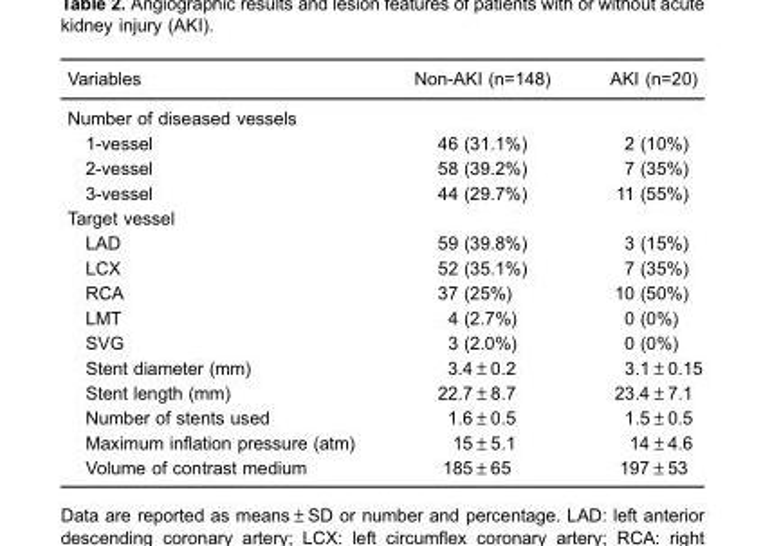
<table><thead><tr><td>Variables</td><td>Non-AKI (n=148)</td><td>AKI (n=20)</td></tr></thead><tbody><tr><td colspan="3">Number of diseased vessels</td></tr><tr><td>1-vessel</td><td>46 (31.1%)</td><td>2 (10%)</td></tr><tr><td>2-vessel</td><td>58 (39.2%)</td><td>7 (35%)</td></tr><tr><td>3-vessel</td><td>44 (29.7%)</td><td>11 (55%)</td></tr><tr><td colspan="3">Target vessel</td></tr><tr><td>LAD</td><td>59 (39.8%)</td><td>3 (15%)</td></tr><tr><td>LCX</td><td>52 (35.1%)</td><td>7 (35%)</td></tr><tr><td>RCA</td><td>37 (25%)</td><td>10 (50%)</td></tr><tr><td>LMT</td><td>4 (2.7%)</td><td>0 (0%)</td></tr><tr><td>SVG</td><td>3 (2.0%)</td><td>0 (0%)</td></tr><tr><td>Stent diameter (mm)</td><td>3.4±0.2</td><td>3.1±0.15</td></tr><tr><td>Stent length (mm)</td><td>22.7±8.7</td><td>23.4±7.1</td></tr><tr><td>Number of stents used</td><td>1.6±0.5</td><td>1.5±0.5</td></tr><tr><td>Maximum inflation pressure (atm)</td><td>15±5.1</td><td>14±4.6</td></tr><tr><td>Volume of contrast medium</td><td>185±65</td><td>197±53</td></tr></tbody></table>